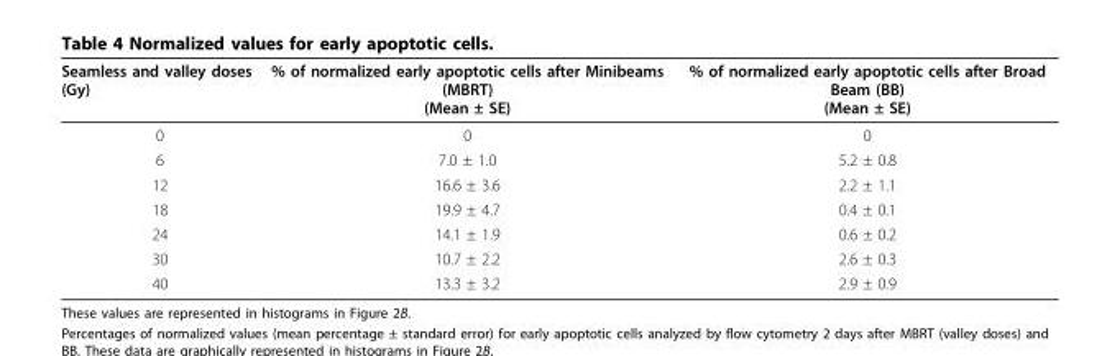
<table><thead><tr><td>Seamless and valley doses (Gy)</td><td>% of normalized early apoptotic cells after Minibeams (MBRT) (Mean ± SE)</td><td>% of normalized early apoptotic cells after Broad Beam (BB) (Mean ± SE)</td></tr></thead><tbody><tr><td>0</td><td>0</td><td>0</td></tr><tr><td>6</td><td>7.0 ± 1.0</td><td>5.2 ± 0.8</td></tr><tr><td>12</td><td>16.6 ± 3.6</td><td>2.2 ± 1.1</td></tr><tr><td>18</td><td>19.9 ± 4.7</td><td>0.4 ± 0.1</td></tr><tr><td>24</td><td>14.1 ± 1.9</td><td>0.6 ± 0.2</td></tr><tr><td>30</td><td>10.7 ± 2.2</td><td>2.6 ± 0.3</td></tr><tr><td>40</td><td>13.3 ± 3.2</td><td>2.9 ± 0.9</td></tr></tbody></table>